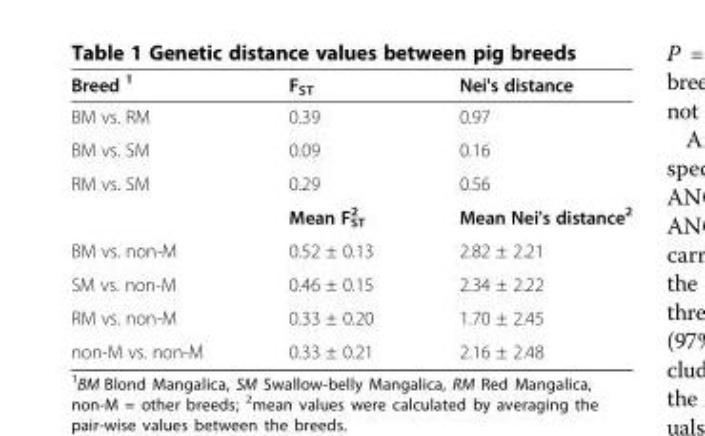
<table><thead><tr><td>Breed <sup>1</sup></td><td>F<sub>ST</sub></td><td>Nei&#x27;s distance</td></tr></thead><tbody><tr><td>BM vs. RM</td><td>0.39</td><td>0.97</td></tr><tr><td>BM vs. SM</td><td>0.09</td><td>0.16</td></tr><tr><td rowspan="2">RM vs. SM</td><td>0.29</td><td>0.56</td></tr><tr><td>Mean F<sub>ST</sub> <sup>2</sup></td><td>Mean Nei&#x27;s distance<sup>2</sup></td></tr><tr><td>BM vs. non-M</td><td>0.52 ± 0.13</td><td>2.82 ± 2.21</td></tr><tr><td>SM vs. non-M</td><td>0.46 ± 0.15</td><td>2.34 ± 2.22</td></tr><tr><td>RM vs. non-M</td><td>0.33 ± 0.20</td><td>1.70 ± 2.45</td></tr><tr><td>non-M vs. non-M</td><td>0.33 ± 0.21</td><td>2.16 ± 2.48</td></tr></tbody></table>